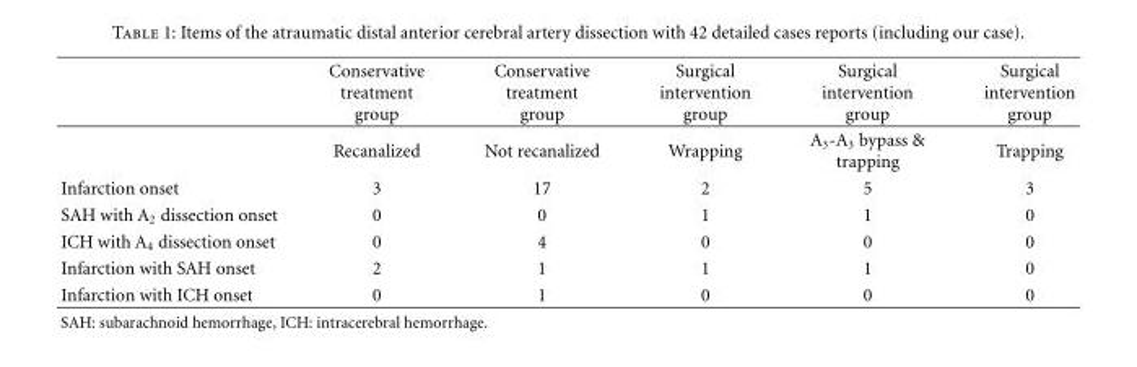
<table><thead><tr><td></td><td>Conservative treatment group</td><td>Conservative treatment group</td><td>Surgical intervention group</td><td>Surgical intervention group</td><td>Surgical intervention group</td></tr></thead><tbody><tr><td></td><td>Recanalized</td><td>Not recanalized</td><td>Wrapping</td><td>A<sub>3</sub>-A<sub>3</sub> bypass &amp; trapping</td><td>Trapping</td></tr><tr><td>Infarction onset</td><td>3</td><td>17</td><td>2</td><td>5</td><td>3</td></tr><tr><td>SAH with A<sub>2</sub> dissection onset</td><td>0</td><td>0</td><td>1</td><td>1</td><td>0</td></tr><tr><td>ICH with A<sub>4</sub> dissection onset</td><td>0</td><td>4</td><td>0</td><td>0</td><td>0</td></tr><tr><td>Infarction with SAH onset</td><td>2</td><td>1</td><td>1</td><td>1</td><td>0</td></tr><tr><td>Infarction with ICH onset</td><td>0</td><td>1</td><td>0</td><td>0</td><td>0</td></tr></tbody></table>